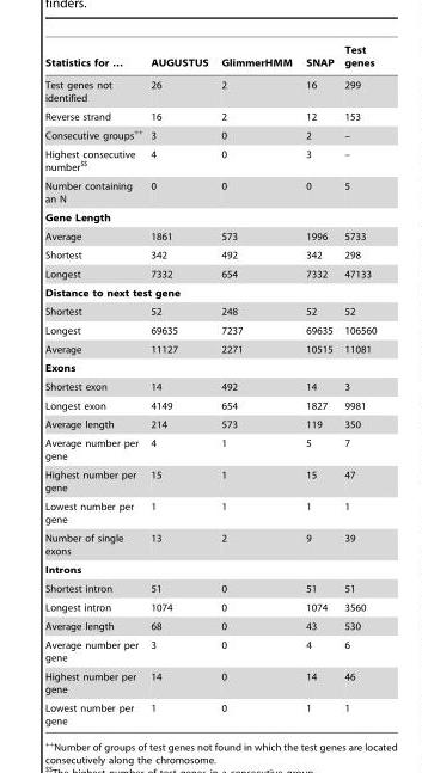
<table><thead><tr><td>Statistics for …</td><td>AUGUSTUS</td><td>GlimmerHMM</td><td>SNAP</td><td>Test genes</td></tr></thead><tbody><tr><td>Test genes not identified</td><td>26</td><td>2</td><td>16</td><td>299</td></tr><tr><td>Reverse strand</td><td>16</td><td>2</td><td>12</td><td>153</td></tr><tr><td>Consecutive groups++</td><td>3</td><td>0</td><td>2</td><td>–</td></tr><tr><td>Highest consecutive number$$</td><td>4</td><td>0</td><td>3</td><td>–</td></tr><tr><td>Number containing an N</td><td>0</td><td>0</td><td>0</td><td>5</td></tr><tr><td colspan="5">Gene Length</td></tr><tr><td>Average</td><td>1861</td><td>573</td><td>1996</td><td>5733</td></tr><tr><td>Shortest</td><td>342</td><td>492</td><td>342</td><td>298</td></tr><tr><td>Longest</td><td>7332</td><td>654</td><td>7332</td><td>47133</td></tr><tr><td colspan="5">Distance to next test gene</td></tr><tr><td>Shortest</td><td>52</td><td>248</td><td>52</td><td>52</td></tr><tr><td>Longest</td><td>69635</td><td>7237</td><td>69635</td><td>106560</td></tr><tr><td>Average</td><td>11127</td><td>2271</td><td>10515</td><td>11081</td></tr><tr><td colspan="5">Exons</td></tr><tr><td>Shortest exon</td><td>14</td><td>492</td><td>14</td><td>3</td></tr><tr><td>Longest exon</td><td>4149</td><td>654</td><td>1827</td><td>9981</td></tr><tr><td>Average length</td><td>214</td><td>573</td><td>119</td><td>350</td></tr><tr><td>Average number per gene</td><td>4</td><td>1</td><td>5</td><td>7</td></tr><tr><td>Highest number per gene</td><td>15</td><td>1</td><td>15</td><td>47</td></tr><tr><td>Lowest number per gene</td><td>1</td><td>1</td><td>1</td><td>1</td></tr><tr><td>Number of single exons</td><td>13</td><td>2</td><td>9</td><td>39</td></tr><tr><td colspan="5">Introns</td></tr><tr><td>Shortest intron</td><td>51</td><td>0</td><td>51</td><td>51</td></tr><tr><td>Longest intron</td><td>1074</td><td>0</td><td>1074</td><td>3560</td></tr><tr><td>Average length</td><td>68</td><td>0</td><td>43</td><td>530</td></tr><tr><td>Average number per gene</td><td>3</td><td>0</td><td>4</td><td>6</td></tr><tr><td>Highest number per gene</td><td>14</td><td>0</td><td>14</td><td>46</td></tr><tr><td>Lowest number per gene</td><td>1</td><td>0</td><td>1</td><td>1</td></tr></tbody></table>